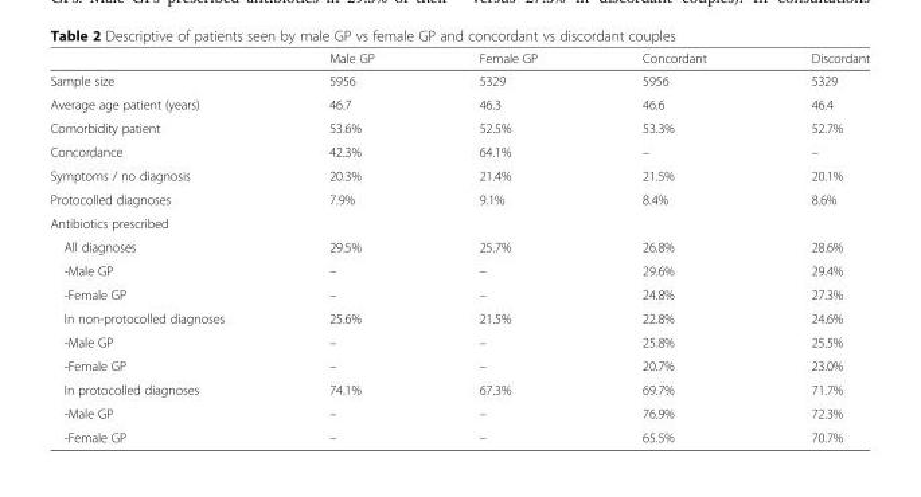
<table><thead><tr><td></td><td>Male GP</td><td>Female GP</td><td>Concordant</td><td>Discordant</td></tr></thead><tbody><tr><td>Sample size</td><td>5956</td><td>5329</td><td>5956</td><td>5329</td></tr><tr><td>Average age patient (years)</td><td>46.7</td><td>46.3</td><td>46.6</td><td>46.4</td></tr><tr><td>Comorbidity patient</td><td>53.6%</td><td>52.5%</td><td>53.3%</td><td>52.7%</td></tr><tr><td>Concordance</td><td>42.3%</td><td>64.1%</td><td>–</td><td>–</td></tr><tr><td>Symptoms / no diagnosis</td><td>20.3%</td><td>21.4%</td><td>21.5%</td><td>20.1%</td></tr><tr><td>Protocolled diagnoses</td><td>7.9%</td><td>9.1%</td><td>8.4%</td><td>8.6%</td></tr><tr><td colspan="5">Antibiotics prescribed</td></tr><tr><td>All diagnoses</td><td>29.5%</td><td>25.7%</td><td>26.8%</td><td>28.6%</td></tr><tr><td>-Male GP</td><td>–</td><td>–</td><td>29.6%</td><td>29.4%</td></tr><tr><td>-Female GP</td><td>–</td><td>–</td><td>24.8%</td><td>27.3%</td></tr><tr><td>In non-protocolled diagnoses</td><td>25.6%</td><td>21.5%</td><td>22.8%</td><td>24.6%</td></tr><tr><td>-Male GP</td><td>–</td><td>–</td><td>25.8%</td><td>25.5%</td></tr><tr><td>-Female GP</td><td>–</td><td>–</td><td>20.7%</td><td>23.0%</td></tr><tr><td>In protocolled diagnoses</td><td>74.1%</td><td>67.3%</td><td>69.7%</td><td>71.7%</td></tr><tr><td>-Male GP</td><td>–</td><td>–</td><td>76.9%</td><td>72.3%</td></tr><tr><td>-Female GP</td><td>–</td><td>–</td><td>65.5%</td><td>70.7%</td></tr></tbody></table>